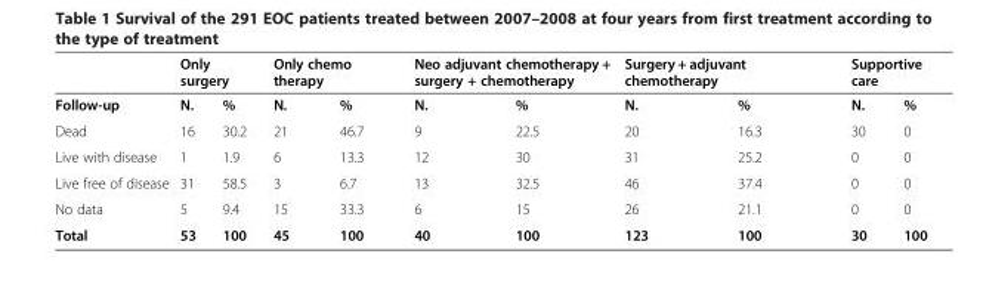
<table><thead><tr><td rowspan="2">Follow-up</td><td colspan="2">Only surgery</td><td colspan="2">Only chemo therapy</td><td colspan="2">Neo adjuvant chemotherapy + surgery + chemotherapy</td><td colspan="2">Surgery + adjuvant chemotherapy</td><td colspan="2">Supportive care</td></tr><tr><td>N.</td><td>%</td><td>N.</td><td>%</td><td>N.</td><td>%</td><td>N.</td><td>%</td><td>N.</td><td>%</td></tr></thead><tbody><tr><td>Dead</td><td>16</td><td>30.2</td><td>21</td><td>46.7</td><td>9</td><td>22.5</td><td>20</td><td>16.3</td><td>30</td><td>0</td></tr><tr><td>Live with disease</td><td>1</td><td>1.9</td><td>6</td><td>13.3</td><td>12</td><td>30</td><td>31</td><td>25.2</td><td>0</td><td>0</td></tr><tr><td>Live free of disease</td><td>31</td><td>58.5</td><td>3</td><td>6.7</td><td>13</td><td>32.5</td><td>46</td><td>37.4</td><td>0</td><td>0</td></tr><tr><td>No data</td><td>5</td><td>9.4</td><td>15</td><td>33.3</td><td>6</td><td>15</td><td>26</td><td>21.1</td><td>0</td><td>0</td></tr><tr><td>Total</td><td>53</td><td>100</td><td>45</td><td>100</td><td>40</td><td>100</td><td>123</td><td>100</td><td>30</td><td>100</td></tr></tbody></table>